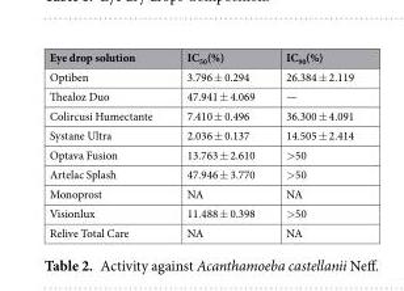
<table><thead><tr><td>Eye drop solution</td><td>IC<sub>50</sub>(%)</td><td>IC<sub>90</sub>(%)</td></tr></thead><tbody><tr><td>Optiben</td><td>3.796 ± 0.294</td><td>26.384 ± 2.119</td></tr><tr><td>Thealoz Duo</td><td>47.941 ± 4.069</td><td>—</td></tr><tr><td>Colircusi Humectante</td><td>7.410 ± 0.496</td><td>36.300 ± 4.091</td></tr><tr><td>Systane Ultra</td><td>2.036 ± 0.137</td><td>14.505 ± 2.414</td></tr><tr><td>Optava Fusion</td><td>13.763 ± 2.610</td><td>&gt;50</td></tr><tr><td>Artelac Splash</td><td>47.946 ± 3.770</td><td>&gt;50</td></tr><tr><td>Monoprost</td><td>NA</td><td>NA</td></tr><tr><td>Visionlux</td><td>11.488 ± 0.398</td><td>&gt;50</td></tr><tr><td>Relive Total Care</td><td>NA</td><td>NA</td></tr></tbody></table>